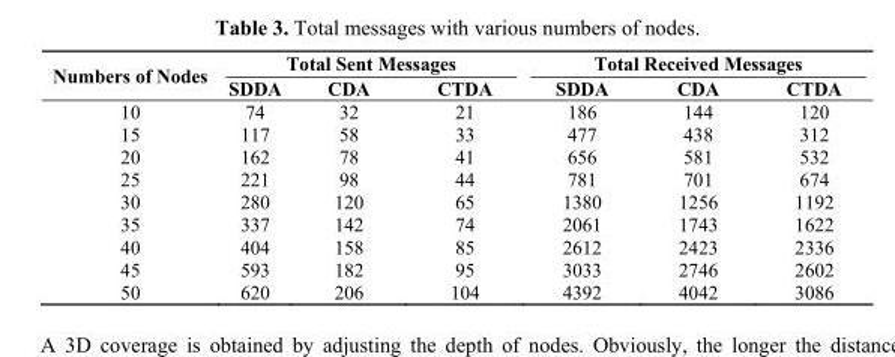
<table><thead><tr><td rowspan="2">Numbers of Nodes</td><td colspan="3">Total Sent Messages</td><td colspan="3">Total Received Messages</td></tr><tr><td>SDDA</td><td>CDA</td><td>CTDA</td><td>SDDA</td><td>CDA</td><td>CTDA</td></tr></thead><tbody><tr><td>10</td><td>74</td><td>32</td><td>21</td><td>186</td><td>144</td><td>120</td></tr><tr><td>15</td><td>117</td><td>58</td><td>33</td><td>477</td><td>438</td><td>312</td></tr><tr><td>20</td><td>162</td><td>78</td><td>41</td><td>656</td><td>581</td><td>532</td></tr><tr><td>25</td><td>221</td><td>98</td><td>44</td><td>781</td><td>701</td><td>674</td></tr><tr><td>30</td><td>280</td><td>120</td><td>65</td><td>1380</td><td>1256</td><td>1192</td></tr><tr><td>35</td><td>337</td><td>142</td><td>74</td><td>2061</td><td>1743</td><td>1622</td></tr><tr><td>40</td><td>404</td><td>158</td><td>85</td><td>2612</td><td>2423</td><td>2336</td></tr><tr><td>45</td><td>593</td><td>182</td><td>95</td><td>3033</td><td>2746</td><td>2602</td></tr><tr><td>50</td><td>620</td><td>206</td><td>104</td><td>4392</td><td>4042</td><td>3086</td></tr></tbody></table>